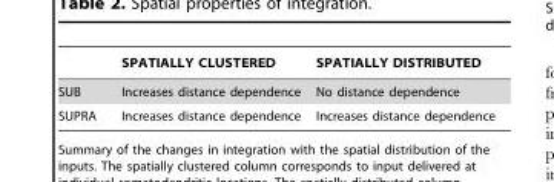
<table><thead><tr><td></td><td>SPATIALLY CLUSTERED</td><td>SPATIALLY DISTRIBUTED</td></tr></thead><tbody><tr><td>SUB</td><td>Increases distance dependence</td><td>No distance dependence</td></tr><tr><td>SUPRA</td><td>Increases distance dependence</td><td>Increases distance dependence</td></tr></tbody></table>